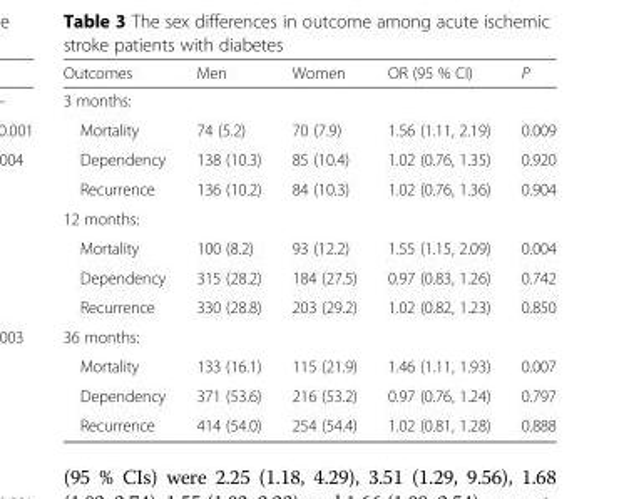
<table><thead><tr><td>Outcomes</td><td>Men</td><td>Women</td><td>OR (95 % CI)</td><td>P</td></tr></thead><tbody><tr><td colspan="5">3 months:</td></tr><tr><td>Mortality</td><td>74 (5.2)</td><td>70 (7.9)</td><td>1.56 (1.11, 2.19)</td><td>0.009</td></tr><tr><td>Dependency</td><td>138 (10.3)</td><td>85 (10.4)</td><td>1.02 (0.76, 1.35)</td><td>0.920</td></tr><tr><td>Recurrence</td><td>136 (10.2)</td><td>84 (10.3)</td><td>1.02 (0.76, 1.36)</td><td>0.904</td></tr><tr><td colspan="5">12 months:</td></tr><tr><td>Mortality</td><td>100 (8.2)</td><td>93 (12.2)</td><td>1.55 (1.15, 2.09)</td><td>0.004</td></tr><tr><td>Dependency</td><td>315 (28.2)</td><td>184 (27.5)</td><td>0.97 (0.83, 1.26)</td><td>0.742</td></tr><tr><td>Recurrence</td><td>330 (28.8)</td><td>203 (29.2)</td><td>1.02 (0.82, 1.23)</td><td>0.850</td></tr><tr><td colspan="5">36 months:</td></tr><tr><td>Mortality</td><td>133 (16.1)</td><td>115 (21.9)</td><td>1.46 (1.11, 1.93)</td><td>0.007</td></tr><tr><td>Dependency</td><td>371 (53.6)</td><td>216 (53.2)</td><td>0.97 (0.76, 1.24)</td><td>0.797</td></tr><tr><td>Recurrence</td><td>414 (54.0)</td><td>254 (54.4)</td><td>1.02 (0.81, 1.28)</td><td>0.888</td></tr></tbody></table>